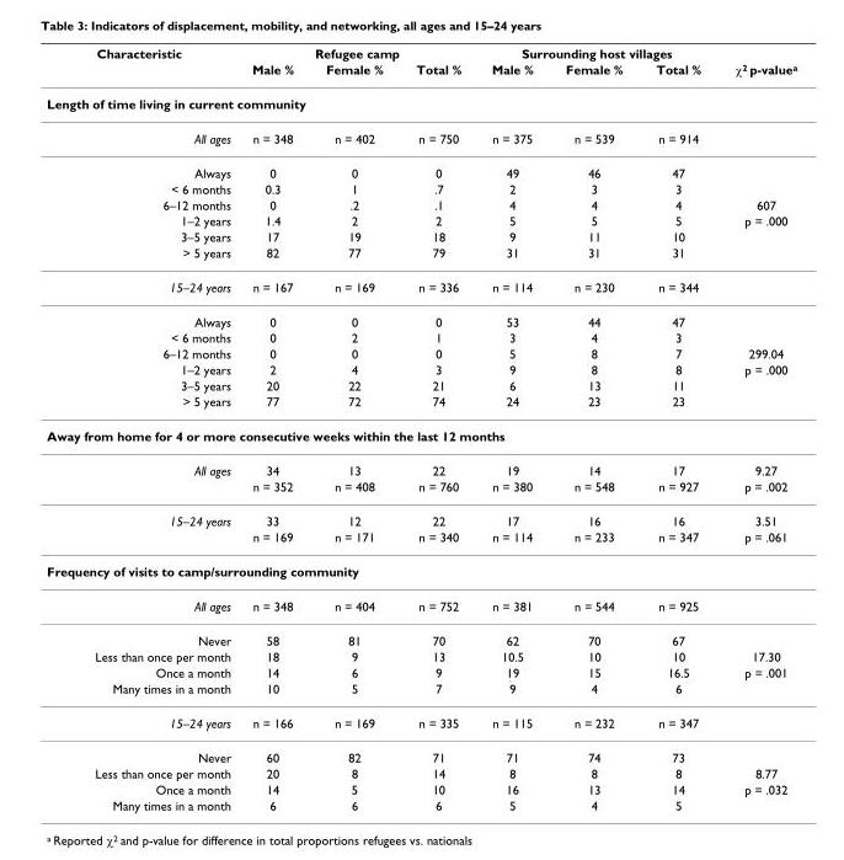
<table><thead><tr><td rowspan="2">Characteristic</td><td colspan="3">Refugee camp</td><td colspan="3">Surrounding host villages</td><td rowspan="2">χ<sup>2</sup> p-value<sup>a</sup></td></tr><tr><td>Male %</td><td>Female %</td><td>Total %</td><td>Male %</td><td>Female %</td><td>Total %</td></tr></thead><tbody><tr><td colspan="8">Length of time living in current community</td></tr><tr><td>All ages</td><td>n = 348</td><td>n = 402</td><td>n = 750</td><td>n = 375</td><td>n = 539</td><td>n = 914</td><td></td></tr><tr><td>Always</td><td>0</td><td>0</td><td>0</td><td>49</td><td>46</td><td>47</td><td></td></tr><tr><td>&lt; 6 months</td><td>0.3</td><td>1</td><td>.7</td><td>2</td><td>3</td><td>3</td><td></td></tr><tr><td>6–12 months</td><td>0</td><td>.2</td><td>.1</td><td>4</td><td>4</td><td>4</td><td>607</td></tr><tr><td>1–2 years</td><td>1.4</td><td>2</td><td>2</td><td>5</td><td>5</td><td>5</td><td>p = .000</td></tr><tr><td>3–5 years</td><td>17</td><td>19</td><td>18</td><td>9</td><td>11</td><td>10</td><td></td></tr><tr><td>&gt; 5 years</td><td>82</td><td>77</td><td>79</td><td>31</td><td>31</td><td>31</td><td></td></tr><tr><td>15–24 years</td><td>n = 167</td><td>n = 169</td><td>n = 336</td><td>n = 114</td><td>n = 230</td><td>n = 344</td><td></td></tr><tr><td>Always</td><td>0</td><td>0</td><td>0</td><td>53</td><td>44</td><td>47</td><td></td></tr><tr><td>&lt; 6 months</td><td>0</td><td>2</td><td>1</td><td>3</td><td>4</td><td>3</td><td></td></tr><tr><td>6–12 months</td><td>0</td><td>0</td><td>0</td><td>5</td><td>8</td><td>7</td><td>299.04</td></tr><tr><td>1–2 years</td><td>2</td><td>4</td><td>3</td><td>9</td><td>8</td><td>8</td><td>p = .000</td></tr><tr><td>3–5 years</td><td>20</td><td>22</td><td>21</td><td>6</td><td>13</td><td>11</td><td></td></tr><tr><td>&gt; 5 years</td><td>77</td><td>72</td><td>74</td><td>24</td><td>23</td><td>23</td><td></td></tr><tr><td colspan="8">Away from home for 4 or more consecutive weeks within the last 12 months</td></tr><tr><td rowspan="2">All ages</td><td>34</td><td>13</td><td>22</td><td>19</td><td>14</td><td>17</td><td>9.27</td></tr><tr><td>n = 352</td><td>n = 408</td><td>n = 760</td><td>n = 380</td><td>n = 548</td><td>n = 927</td><td>p = .002</td></tr><tr><td rowspan="2">15–24 years</td><td>33</td><td>12</td><td>22</td><td>17</td><td>16</td><td>16</td><td>3.51</td></tr><tr><td>n = 169</td><td>n = 171</td><td>n = 340</td><td>n = 114</td><td>n = 233</td><td>n = 347</td><td>p = .061</td></tr><tr><td colspan="8">Frequency of visits to camp/surrounding community</td></tr><tr><td>All ages</td><td>n = 348</td><td>n = 404</td><td>n = 752</td><td>n = 381</td><td>n = 544</td><td>n = 925</td><td></td></tr><tr><td>Never</td><td>58</td><td>81</td><td>70</td><td>62</td><td>70</td><td>67</td><td></td></tr><tr><td>Less than once per month</td><td>18</td><td>9</td><td>13</td><td>10.5</td><td>10</td><td>10</td><td>17.30</td></tr><tr><td>Once a month</td><td>14</td><td>6</td><td>9</td><td>19</td><td>15</td><td>16.5</td><td>p = .001</td></tr><tr><td>Many times in a month</td><td>10</td><td>5</td><td>7</td><td>9</td><td>4</td><td>6</td><td></td></tr><tr><td>15–24 years</td><td>n = 166</td><td>n = 169</td><td>n = 335</td><td>n = 115</td><td>n = 232</td><td>n = 347</td><td></td></tr><tr><td>Never</td><td>60</td><td>82</td><td>71</td><td>71</td><td>74</td><td>73</td><td></td></tr><tr><td>Less than once per month</td><td>20</td><td>8</td><td>14</td><td>8</td><td>8</td><td>8</td><td>8.77</td></tr><tr><td>Once a month</td><td>14</td><td>5</td><td>10</td><td>16</td><td>13</td><td>14</td><td>p = .032</td></tr><tr><td>Many times in a month</td><td>6</td><td>6</td><td>6</td><td>5</td><td>4</td><td>5</td><td></td></tr></tbody></table>